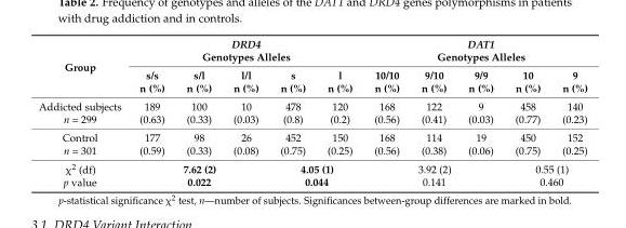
<table><thead><tr><td rowspan="2">Group</td><td colspan="5">DRD4 Genotypes Alleles</td><td colspan="5">DAT1 Genotypes Alleles</td></tr><tr><td>s/s n (%)</td><td>s/l n (%)</td><td>l/l n (%)</td><td>s n (%)</td><td>l n (%)</td><td>10/10 n (%)</td><td>9/10 n (%)</td><td>9/9 n (%)</td><td>10 n (%)</td><td>9 n (%)</td></tr></thead><tbody><tr><td>Addicted subjects n = 299</td><td>189 (0.63)</td><td>100 (0.33)</td><td>10 (0.03)</td><td>478 (0.8)</td><td>120 (0.2)</td><td>168 (0.56)</td><td>122 (0.41)</td><td>9 (0.03)</td><td>458 (0.77)</td><td>140 (0.23)</td></tr><tr><td>Control n = 301</td><td>177 (0.59)</td><td>98 (0.33)</td><td>26 (0.08)</td><td>452 (0.75)</td><td>150 (0.25)</td><td>168 (0.56)</td><td>114 (0.38)</td><td>19 (0.06)</td><td>450 (0.75)</td><td>152 (0.25)</td></tr><tr><td>χ<sup>2</sup> (df) p value</td><td colspan="3">7.62 (2) 0.022</td><td colspan="2">4.05 (1) 0.044</td><td colspan="3">3.92 (2) 0.141</td><td colspan="2">0.55 (1) 0.460</td></tr></tbody></table>